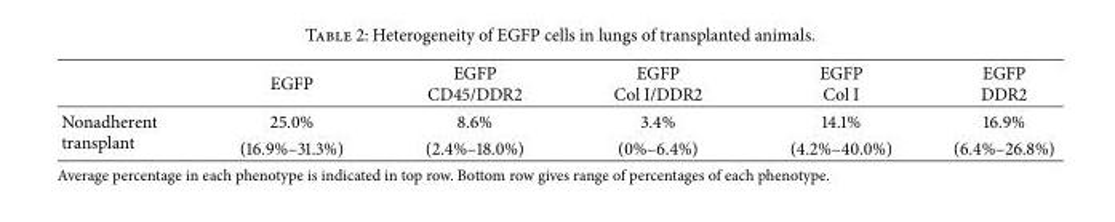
<table><thead><tr><td></td><td>EGFP</td><td>EGFP CD45/DDR2</td><td>EGFP Col I/DDR2</td><td>EGFP Col I</td><td>EGFP DDR2</td></tr></thead><tbody><tr><td rowspan="2">Nonadherent transplant</td><td>25.0%</td><td>8.6%</td><td>3.4%</td><td>14.1%</td><td>16.9%</td></tr><tr><td>(16.9%–31.3%)</td><td>(2.4%–18.0%)</td><td>(0%–6.4%)</td><td>(4.2%–40.0%)</td><td>(6.4%–26.8%)</td></tr></tbody></table>